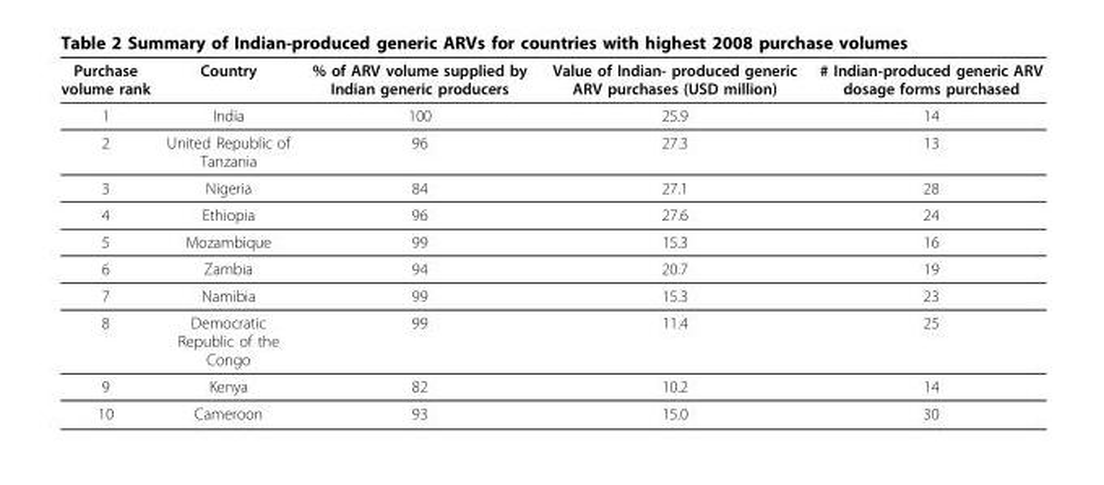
<table><thead><tr><td>Purchase volume rank</td><td>Country</td><td>% of ARV volume supplied by Indian generic producers</td><td>Value of Indian- produced generic ARV purchases (USD million)</td><td># Indian-produced generic ARV dosage forms purchased</td></tr></thead><tbody><tr><td>1</td><td>India</td><td>100</td><td>25.9</td><td>14</td></tr><tr><td>2</td><td>United Republic of Tanzania</td><td>96</td><td>27.3</td><td>13</td></tr><tr><td>3</td><td>Nigeria</td><td>84</td><td>27.1</td><td>28</td></tr><tr><td>4</td><td>Ethiopia</td><td>96</td><td>27.6</td><td>24</td></tr><tr><td>5</td><td>Mozambique</td><td>99</td><td>15.3</td><td>16</td></tr><tr><td>6</td><td>Zambia</td><td>94</td><td>20.7</td><td>19</td></tr><tr><td>7</td><td>Namibia</td><td>99</td><td>15.3</td><td>23</td></tr><tr><td>8</td><td>Democratic Republic of the Congo</td><td>99</td><td>11.4</td><td>25</td></tr><tr><td>9</td><td>Kenya</td><td>82</td><td>10.2</td><td>14</td></tr><tr><td>10</td><td>Cameroon</td><td>93</td><td>15.0</td><td>30</td></tr></tbody></table>